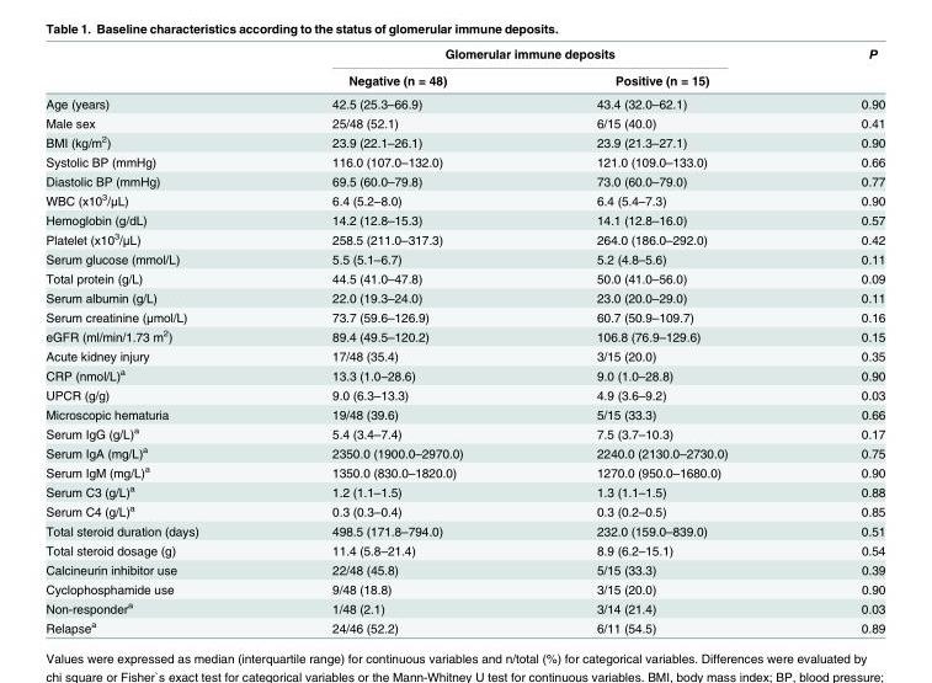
<table><thead><tr><td rowspan="2"></td><td colspan="2">Glomerular immune deposits</td><td rowspan="2">P</td></tr><tr><td>Negative (n = 48)</td><td>Positive (n = 15)</td></tr></thead><tbody><tr><td>Age (years)</td><td>42.5 (25.3–66.9)</td><td>43.4 (32.0–62.1)</td><td>0.90</td></tr><tr><td>Male sex</td><td>25/48 (52.1)</td><td>6/15 (40.0)</td><td>0.41</td></tr><tr><td>BMI (kg/m<sup>2</sup>)</td><td>23.9 (22.1–26.1)</td><td>23.9 (21.3–27.1)</td><td>0.90</td></tr><tr><td>Systolic BP (mmHg)</td><td>116.0 (107.0–132.0)</td><td>121.0 (109.0–133.0)</td><td>0.66</td></tr><tr><td>Diastolic BP (mmHg)</td><td>69.5 (60.0–79.8)</td><td>73.0 (60.0–79.0)</td><td>0.77</td></tr><tr><td>WBC (x10<sup>3</sup>/μL)</td><td>6.4 (5.2–8.0)</td><td>6.4 (5.4–7.3)</td><td>0.90</td></tr><tr><td>Hemoglobin (g/dL)</td><td>14.2 (12.8–15.3)</td><td>14.1 (12.8–16.0)</td><td>0.57</td></tr><tr><td>Platelet (x10<sup>3</sup>/μL)</td><td>258.5 (211.0–317.3)</td><td>264.0 (186.0–292.0)</td><td>0.42</td></tr><tr><td>Serum glucose (mmol/L)</td><td>5.5 (5.1–6.7)</td><td>5.2 (4.8–5.6)</td><td>0.11</td></tr><tr><td>Total protein (g/L)</td><td>44.5 (41.0–47.8)</td><td>50.0 (41.0–56.0)</td><td>0.09</td></tr><tr><td>Serum albumin (g/L)</td><td>22.0 (19.3–24.0)</td><td>23.0 (20.0–29.0)</td><td>0.11</td></tr><tr><td>Serum creatinine (μmol/L)</td><td>73.7 (59.6–126.9)</td><td>60.7 (50.9–109.7)</td><td>0.16</td></tr><tr><td>eGFR (ml/min/1.73 m<sup>2</sup>)</td><td>89.4 (49.5–120.2)</td><td>106.8 (76.9–129.6)</td><td>0.15</td></tr><tr><td>Acute kidney injury</td><td>17/48 (35.4)</td><td>3/15 (20.0)</td><td>0.35</td></tr><tr><td>CRP (nmol/L)<sup>a</sup></td><td>13.3 (1.0–28.6)</td><td>9.0 (1.0–28.8)</td><td>0.90</td></tr><tr><td>UPCR (g/g)</td><td>9.0 (6.3–13.3)</td><td>4.9 (3.6–9.2)</td><td>0.03</td></tr><tr><td>Microscopic hematuria</td><td>19/48 (39.6)</td><td>5/15 (33.3)</td><td>0.66</td></tr><tr><td>Serum IgG (g/L)<sup>a</sup></td><td>5.4 (3.4–7.4)</td><td>7.5 (3.7–10.3)</td><td>0.17</td></tr><tr><td>Serum IgA (mg/L)<sup>a</sup></td><td>2350.0 (1900.0–2970.0)</td><td>2240.0 (2130.0–2730.0)</td><td>0.75</td></tr><tr><td>Serum IgM (mg/L)<sup>a</sup></td><td>1350.0 (830.0–1820.0)</td><td>1270.0 (950.0–1680.0)</td><td>0.90</td></tr><tr><td>Serum C3 (g/L)<sup>a</sup></td><td>1.2 (1.1–1.5)</td><td>1.3 (1.1–1.5)</td><td>0.88</td></tr><tr><td>Serum C4 (g/L)<sup>a</sup></td><td>0.3 (0.3–0.4)</td><td>0.3 (0.2–0.5)</td><td>0.85</td></tr><tr><td>Total steroid duration (days)</td><td>498.5 (171.8–794.0)</td><td>232.0 (159.0–839.0)</td><td>0.51</td></tr><tr><td>Total steroid dosage (g)</td><td>11.4 (5.8–21.4)</td><td>8.9 (6.2–15.1)</td><td>0.54</td></tr><tr><td>Calcineurin inhibitor use</td><td>22/48 (45.8)</td><td>5/15 (33.3)</td><td>0.39</td></tr><tr><td>Cyclophosphamide use</td><td>9/48 (18.8)</td><td>3/15 (20.0)</td><td>0.90</td></tr><tr><td>Non-responder<sup>a</sup></td><td>1/48 (2.1)</td><td>3/14 (21.4)</td><td>0.03</td></tr><tr><td>Relapse<sup>a</sup></td><td>24/46 (52.2)</td><td>6/11 (54.5)</td><td>0.89</td></tr></tbody></table>